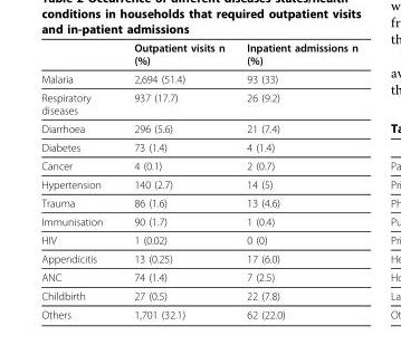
<table><thead><tr><td></td><td>Outpatient visits n (%)</td><td>Inpatient admissions n (%)</td></tr></thead><tbody><tr><td>Malaria</td><td>2,694 (51.4)</td><td>93 (33)</td></tr><tr><td>Respiratory diseases</td><td>937 (17.7)</td><td>26 (9.2)</td></tr><tr><td>Diarrhoea</td><td>296 (5.6)</td><td>21 (7.4)</td></tr><tr><td>Diabetes</td><td>73 (1.4)</td><td>4 (1.4)</td></tr><tr><td>Cancer</td><td>4 (0.1)</td><td>2 (0.7)</td></tr><tr><td>Hypertension</td><td>140 (2.7)</td><td>14 (5)</td></tr><tr><td>Trauma</td><td>86 (1.6)</td><td>13 (4.6)</td></tr><tr><td>Immunisation</td><td>90 (1.7)</td><td>1 (0.4)</td></tr><tr><td>HIV</td><td>1 (0.02)</td><td>0 (0)</td></tr><tr><td>Appendicitis</td><td>13 (0.25)</td><td>17 (6.0)</td></tr><tr><td>ANC</td><td>74 (1.4)</td><td>7 (2.5)</td></tr><tr><td>Childbirth</td><td>27 (0.5)</td><td>22 (7.8)</td></tr><tr><td>Others</td><td>1,701 (32.1)</td><td>62 (22.0)</td></tr></tbody></table>